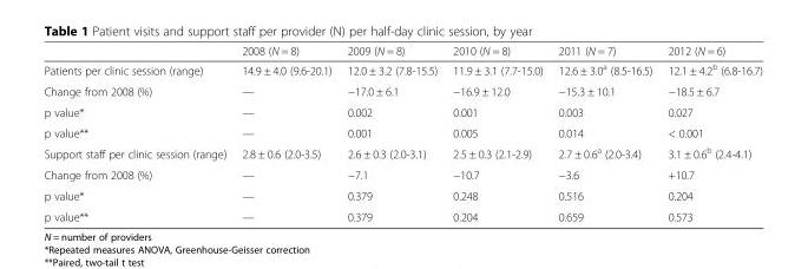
<table><thead><tr><td></td><td>2008 (N = 8)</td><td>2009 (N = 8)</td><td>2010 (N = 8)</td><td>2011 (N = 7)</td><td>2012 (N = 6)</td></tr></thead><tbody><tr><td>Patients per clinic session (range)</td><td>14.9 ± 4.0 (9.6-20.1)</td><td>12.0 ± 3.2 (7.8-15.5)</td><td>11.9 ± 3.1 (7.7-15.0)</td><td>12.6 ± 3.0<sup>a</sup> (8.5-16.5)</td><td>12.1 ± 4.2<sup>b</sup> (6.8-16.7)</td></tr><tr><td>Change from 2008 (%)</td><td>—</td><td>−17.0 ± 6.1</td><td>−16.9 ± 12.0</td><td>−15.3 ± 10.1</td><td>−18.5 ± 6.7</td></tr><tr><td>p value*</td><td>—</td><td>0.002</td><td>0.001</td><td>0.003</td><td>0.027</td></tr><tr><td>p value**</td><td>—</td><td>0.001</td><td>0.005</td><td>0.014</td><td>&lt; 0.001</td></tr><tr><td>Support staff per clinic session (range)</td><td>2.8 ± 0.6 (2.0-3.5)</td><td>2.6 ± 0.3 (2.0-3.1)</td><td>2.5 ± 0.3 (2.1-2.9)</td><td>2.7 ± 0.6<sup>a</sup> (2.0-3.4)</td><td>3.1 ± 0.6<sup>b</sup> (2.4-4.1)</td></tr><tr><td>Change from 2008 (%)</td><td>—</td><td>−7.1</td><td>−10.7</td><td>−3.6</td><td>+10.7</td></tr><tr><td>p value*</td><td>—</td><td>0.379</td><td>0.248</td><td>0.516</td><td>0.204</td></tr><tr><td>p value**</td><td>—</td><td>0.379</td><td>0.204</td><td>0.659</td><td>0.573</td></tr></tbody></table>